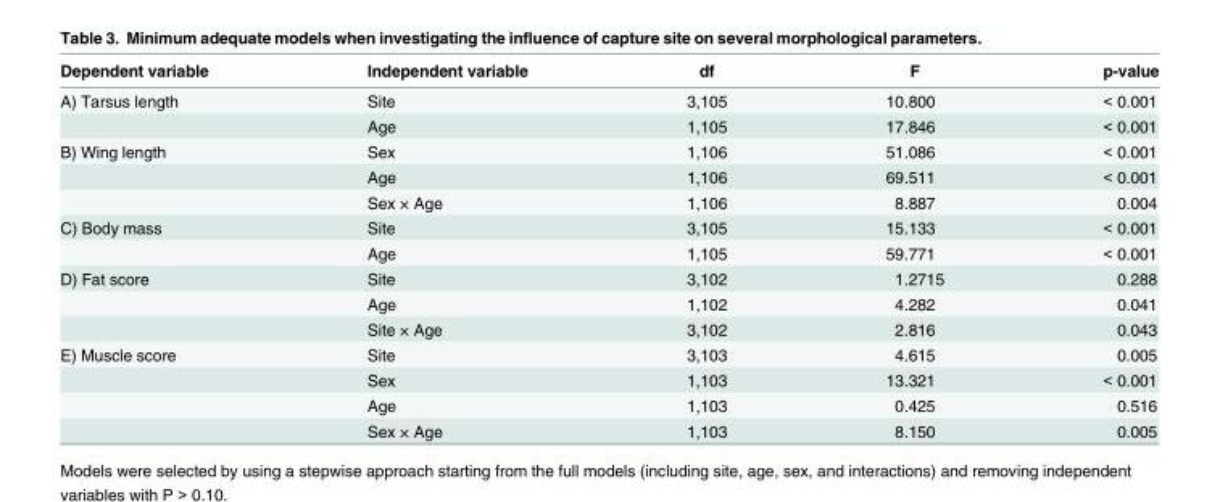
<table><thead><tr><td>Dependent variable</td><td>Independent variable</td><td>df</td><td>F</td><td>p-value</td></tr></thead><tbody><tr><td rowspan="2">A) Tarsus length</td><td>Site</td><td>3,105</td><td>10.800</td><td>&lt; 0.001</td></tr><tr><td>Age</td><td>1,105</td><td>17.846</td><td>&lt; 0.001</td></tr><tr><td rowspan="3">B) Wing length</td><td>Sex</td><td>1,106</td><td>51.086</td><td>&lt; 0.001</td></tr><tr><td>Age</td><td>1,106</td><td>69.511</td><td>&lt; 0.001</td></tr><tr><td>Sex × Age</td><td>1,106</td><td>8.887</td><td>0.004</td></tr><tr><td rowspan="2">C) Body mass</td><td>Site</td><td>3,105</td><td>15.133</td><td>&lt; 0.001</td></tr><tr><td>Age</td><td>1,105</td><td>59.771</td><td>&lt; 0.001</td></tr><tr><td rowspan="3">D) Fat score</td><td>Site</td><td>3,102</td><td>1.2715</td><td>0.288</td></tr><tr><td>Age</td><td>1,102</td><td>4.282</td><td>0.041</td></tr><tr><td>Site × Age</td><td>3,102</td><td>2.816</td><td>0.043</td></tr><tr><td rowspan="4">E) Muscle score</td><td>Site</td><td>3,103</td><td>4.615</td><td>0.005</td></tr><tr><td>Sex</td><td>1,103</td><td>13.321</td><td>&lt; 0.001</td></tr><tr><td>Age</td><td>1,103</td><td>0.425</td><td>0.516</td></tr><tr><td>Sex × Age</td><td>1,103</td><td>8.150</td><td>0.005</td></tr></tbody></table>